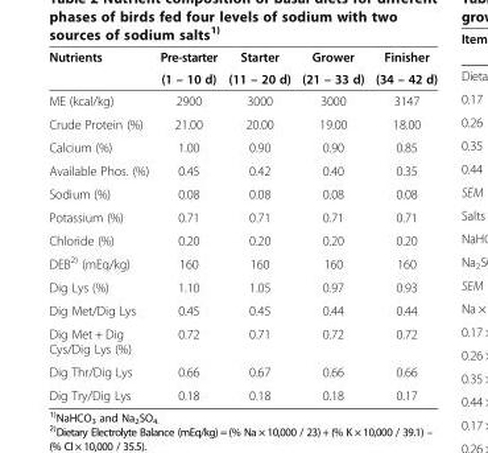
<table><thead><tr><td rowspan="2">Nutrients</td><td rowspan="2">Pre-starter (1 – 10 d)</td><td rowspan="2">Starter (11 – 20 d)</td><td rowspan="2">Grower (21 – 33 d)</td><td rowspan="2">Finisher (34 – 42 d)</td></tr><tr></tr></thead><tbody><tr><td>ME (kcal/kg)</td><td>2900</td><td>3000</td><td>3000</td><td>3147</td></tr><tr><td>Crude Protein (%)</td><td>21.00</td><td>20.00</td><td>19.00</td><td>18.00</td></tr><tr><td>Calcium (%)</td><td>1.00</td><td>0.90</td><td>0.90</td><td>0.85</td></tr><tr><td>Available Phos. (%)</td><td>0.45</td><td>0.42</td><td>0.40</td><td>0.35</td></tr><tr><td>Sodium (%)</td><td>0.08</td><td>0.08</td><td>0.08</td><td>0.08</td></tr><tr><td>Potassium (%)</td><td>0.71</td><td>0.71</td><td>0.71</td><td>0.71</td></tr><tr><td>Chloride (%)</td><td>0.20</td><td>0.20</td><td>0.20</td><td>0.20</td></tr><tr><td>DEB<sup>2)</sup> (mEq/kg)</td><td>160</td><td>160</td><td>160</td><td>160</td></tr><tr><td>Dig Lys (%)</td><td>1.10</td><td>1.05</td><td>0.97</td><td>0.93</td></tr><tr><td>Dig Met/Dig Lys</td><td>0.45</td><td>0.45</td><td>0.44</td><td>0.44</td></tr><tr><td>Dig Met + Dig Cys/Dig Lys (%)</td><td>0.72</td><td>0.71</td><td>0.72</td><td>0.72</td></tr><tr><td>Dig Thr/Dig Lys</td><td>0.66</td><td>0.67</td><td>0.66</td><td>0.66</td></tr><tr><td>Dig Try/Dig Lys</td><td>0.18</td><td>0.18</td><td>0.18</td><td>0.17</td></tr></tbody></table>